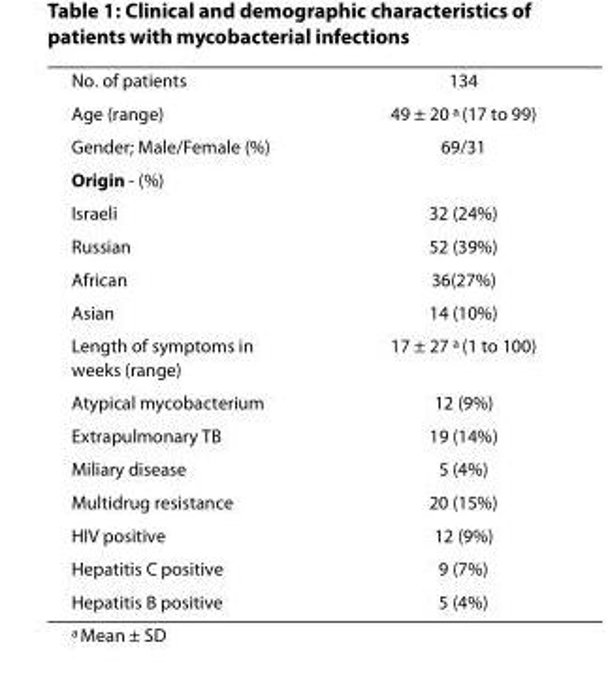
<table><tbody><tr><td>No. of patients</td><td>134</td></tr><tr><td>Age (range)</td><td>49 ± 20 <sup>a</sup> (17 to 99)</td></tr><tr><td>Gender; Male/Female (%)</td><td>69/31</td></tr><tr><td colspan="2">Origin - (%)</td></tr><tr><td>Israeli</td><td>32 (24%)</td></tr><tr><td>Russian</td><td>52 (39%)</td></tr><tr><td>African</td><td>36(27%)</td></tr><tr><td>Asian</td><td>14 (10%)</td></tr><tr><td>Length of symptoms in weeks (range)</td><td>17 ± 27 <sup>a</sup> (1 to 100)</td></tr><tr><td>Atypical mycobacterium</td><td>12 (9%)</td></tr><tr><td>Extrapulmonary TB</td><td>19 (14%)</td></tr><tr><td>Miliary disease</td><td>5 (4%)</td></tr><tr><td>Multidrug resistance</td><td>20 (15%)</td></tr><tr><td>HIV positive</td><td>12 (9%)</td></tr><tr><td>Hepatitis C positive</td><td>9 (7%)</td></tr><tr><td>Hepatitis B positive</td><td>5 (4%)</td></tr></tbody></table>